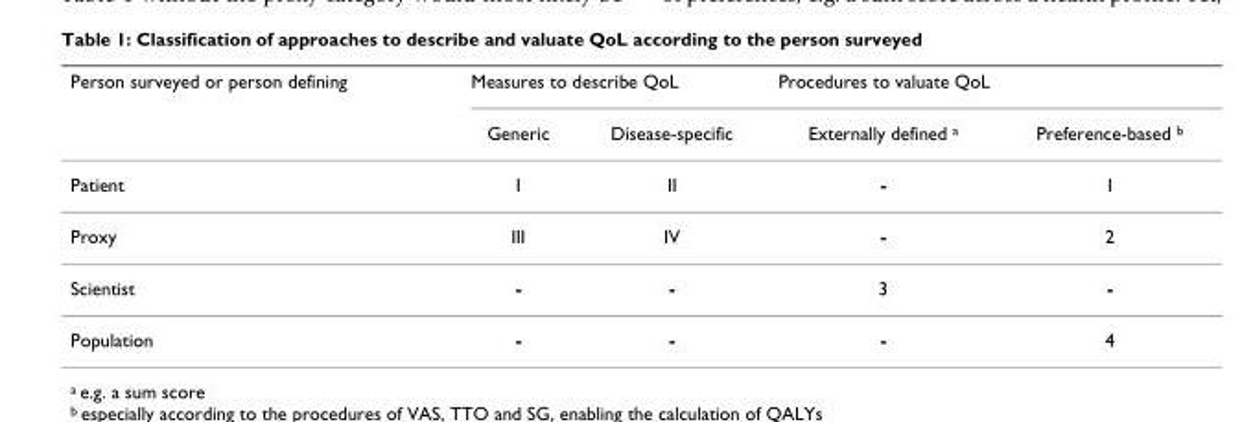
<table><thead><tr><td rowspan="2">Person surveyed or person defining</td><td colspan="2">Measures to describe QoL</td><td colspan="2">Procedures to valuate QoL</td></tr><tr><td>Generic</td><td>Disease-specific</td><td>Externally defined <sup>a</sup></td><td>Preference-based <sup>b</sup></td></tr></thead><tbody><tr><td>Patient</td><td>I</td><td>II</td><td>-</td><td>1</td></tr><tr><td>Proxy</td><td>III</td><td>IV</td><td>-</td><td>2</td></tr><tr><td>Scientist</td><td>-</td><td>-</td><td>3</td><td>-</td></tr><tr><td>Population</td><td>-</td><td>-</td><td>-</td><td>4</td></tr></tbody></table>